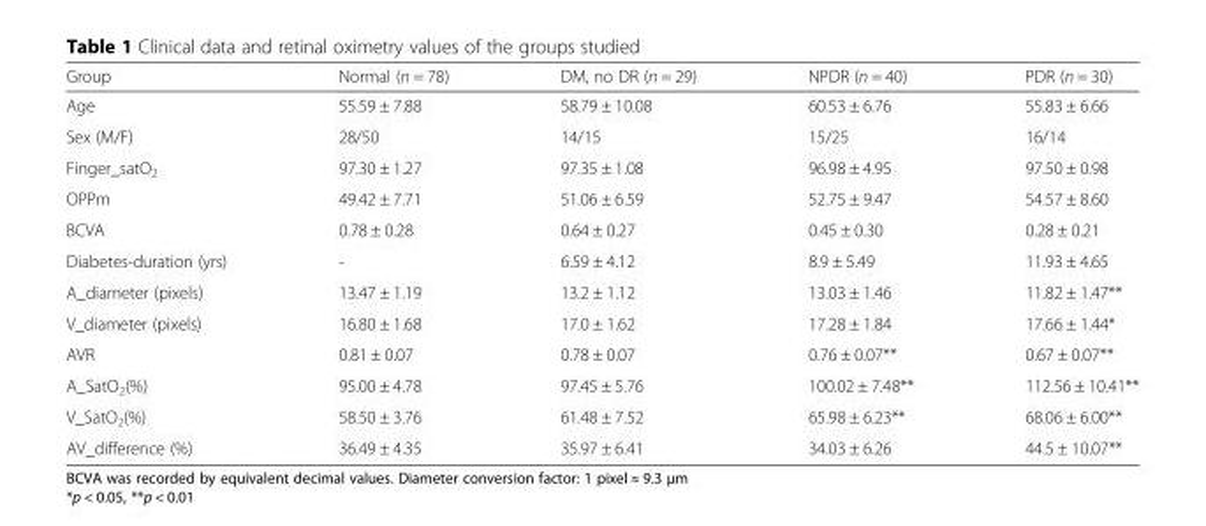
<table><thead><tr><td>Group</td><td>Normal (n = 78)</td><td>DM, no DR (n = 29)</td><td>NPDR (n = 40)</td><td>PDR (n = 30)</td></tr></thead><tbody><tr><td>Age</td><td>55.59 ± 7.88</td><td>58.79 ± 10.08</td><td>60.53 ± 6.76</td><td>55.83 ± 6.66</td></tr><tr><td>Sex (M/F)</td><td>28/50</td><td>14/15</td><td>15/25</td><td>16/14</td></tr><tr><td>Finger_satO<sub>2</sub></td><td>97.30 ± 1.27</td><td>97.35 ± 1.08</td><td>96.98 ± 4.95</td><td>97.50 ± 0.98</td></tr><tr><td>OPPm</td><td>49.42 ± 7.71</td><td>51.06 ± 6.59</td><td>52.75 ± 9.47</td><td>54.57 ± 8.60</td></tr><tr><td>BCVA</td><td>0.78 ± 0.28</td><td>0.64 ± 0.27</td><td>0.45 ± 0.30</td><td>0.28 ± 0.21</td></tr><tr><td>Diabetes-duration (yrs)</td><td>-</td><td>6.59 ± 4.12</td><td>8.9 ± 5.49</td><td>11.93 ± 4.65</td></tr><tr><td>A_diameter (pixels)</td><td>13.47 ± 1.19</td><td>13.2 ± 1.12</td><td>13.03 ± 1.46</td><td>11.82 ± 1.47**</td></tr><tr><td>V_diameter (pixels)</td><td>16.80 ± 1.68</td><td>17.0 ± 1.62</td><td>17.28 ± 1.84</td><td>17.66 ± 1.44*</td></tr><tr><td>AVR</td><td>0.81 ± 0.07</td><td>0.78 ± 0.07</td><td>0.76 ± 0.07**</td><td>0.67 ± 0.07**</td></tr><tr><td>A_SatO<sub>2</sub>(%)</td><td>95.00 ± 4.78</td><td>97.45 ± 5.76</td><td>100.02 ± 7.48**</td><td>112.56 ± 10.41**</td></tr><tr><td>V_SatO<sub>2</sub>(%)</td><td>58.50 ± 3.76</td><td>61.48 ± 7.52</td><td>65.98 ± 6.23**</td><td>68.06 ± 6.00**</td></tr><tr><td>AV_difference (%)</td><td>36.49 ± 4.35</td><td>35.97 ± 6.41</td><td>34.03 ± 6.26</td><td>44.5 ± 10.07**</td></tr></tbody></table>